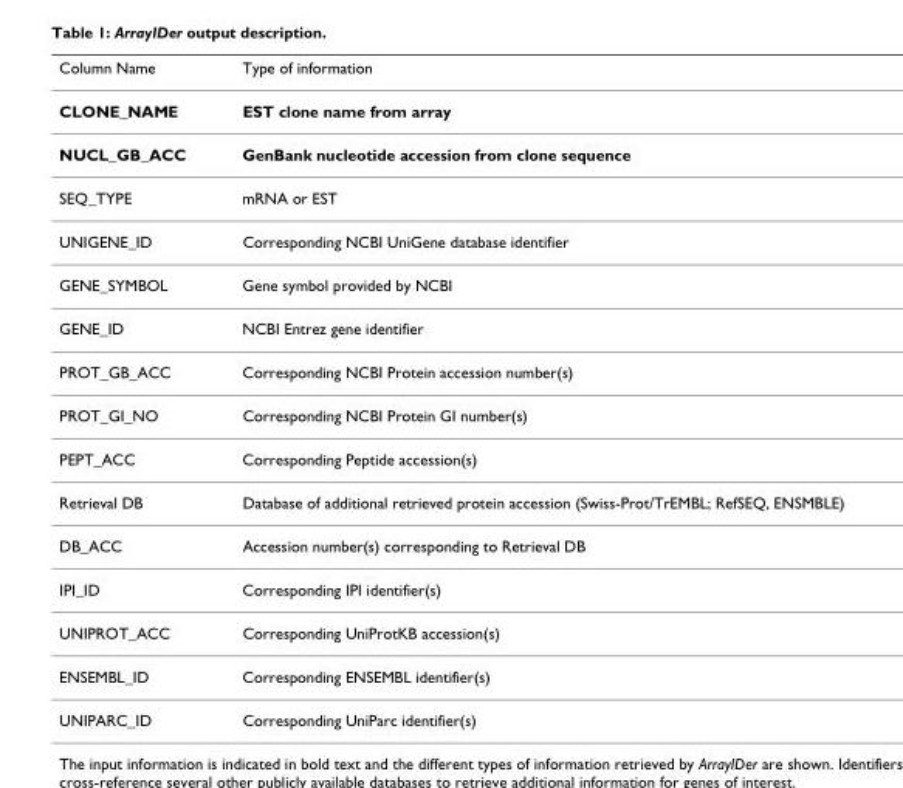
<table><thead><tr><td>Column Name</td><td>Type of information</td></tr></thead><tbody><tr><td>CLONE_NAME</td><td>EST clone name from array</td></tr><tr><td>NUCL_GB_ACC</td><td>GenBank nucleotide accession from clone sequence</td></tr><tr><td>SEQ_TYPE</td><td>mRNA or EST</td></tr><tr><td>UNIGENE_ID</td><td>Corresponding NCBI UniGene database identifier</td></tr><tr><td>GENE_SYMBOL</td><td>Gene symbol provided by NCBI</td></tr><tr><td>GENE_ID</td><td>NCBI Entrez gene identifier</td></tr><tr><td>PROT_GB_ACC</td><td>Corresponding NCBI Protein accession number(s)</td></tr><tr><td>PROT_GI_NO</td><td>Corresponding NCBI Protein GI number(s)</td></tr><tr><td>PEPT_ACC</td><td>Corresponding Peptide accession(s)</td></tr><tr><td>Retrieval DB</td><td>Database of additional retrieved protein accession (Swiss-Prot/TrEMBL; RefSEQ, ENSMBLE)</td></tr><tr><td>DB_ACC</td><td>Accession number(s) corresponding to Retrieval DB</td></tr><tr><td>IPI_ID</td><td>Corresponding IPI identifier(s)</td></tr><tr><td>UNIPROT_ACC</td><td>Corresponding UniProtKB accession(s)</td></tr><tr><td>ENSEMBL_ID</td><td>Corresponding ENSEMBL identifier(s)</td></tr><tr><td>UNIPARC_ID</td><td>Corresponding UniParc identifier(s)</td></tr></tbody></table>